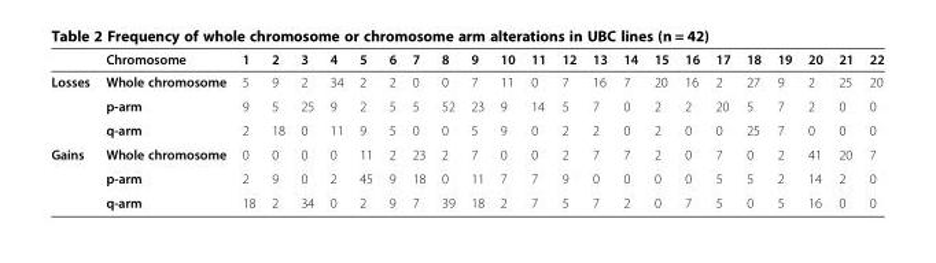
<table><thead><tr><td></td><td>Chromosome</td><td>1</td><td>2</td><td>3</td><td>4</td><td>5</td><td>6</td><td>7</td><td>8</td><td>9</td><td>10</td><td>11</td><td>12</td><td>13</td><td>14</td><td>15</td><td>16</td><td>17</td><td>18</td><td>19</td><td>20</td><td>21</td><td>22</td></tr></thead><tbody><tr><td rowspan="3">Losses</td><td>Whole chromosome</td><td>5</td><td>9</td><td>2</td><td>34</td><td>2</td><td>2</td><td>0</td><td>0</td><td>7</td><td>11</td><td>0</td><td>7</td><td>16</td><td>7</td><td>20</td><td>16</td><td>2</td><td>27</td><td>9</td><td>2</td><td>25</td><td>20</td></tr><tr><td>p-arm</td><td>9</td><td>5</td><td>25</td><td>9</td><td>2</td><td>5</td><td>5</td><td>52</td><td>23</td><td>9</td><td>14</td><td>5</td><td>7</td><td>0</td><td>2</td><td>2</td><td>20</td><td>5</td><td>7</td><td>2</td><td>0</td><td>0</td></tr><tr><td>q-arm</td><td>2</td><td>18</td><td>0</td><td>11</td><td>9</td><td>5</td><td>0</td><td>0</td><td>5</td><td>9</td><td>0</td><td>2</td><td>2</td><td>0</td><td>2</td><td>0</td><td>0</td><td>25</td><td>7</td><td>0</td><td>0</td><td>0</td></tr><tr><td rowspan="3">Gains</td><td>Whole chromosome</td><td>0</td><td>0</td><td>0</td><td>0</td><td>11</td><td>2</td><td>23</td><td>2</td><td>7</td><td>0</td><td>0</td><td>2</td><td>7</td><td>7</td><td>2</td><td>0</td><td>7</td><td>0</td><td>2</td><td>41</td><td>20</td><td>7</td></tr><tr><td>p-arm</td><td>2</td><td>9</td><td>0</td><td>2</td><td>45</td><td>9</td><td>18</td><td>0</td><td>11</td><td>7</td><td>7</td><td>9</td><td>0</td><td>0</td><td>0</td><td>0</td><td>5</td><td>5</td><td>2</td><td>14</td><td>2</td><td>0</td></tr><tr><td>q-arm</td><td>18</td><td>2</td><td>34</td><td>0</td><td>2</td><td>9</td><td>7</td><td>39</td><td>18</td><td>2</td><td>7</td><td>5</td><td>7</td><td>2</td><td>0</td><td>7</td><td>5</td><td>0</td><td>5</td><td>16</td><td>0</td><td>0</td></tr></tbody></table>